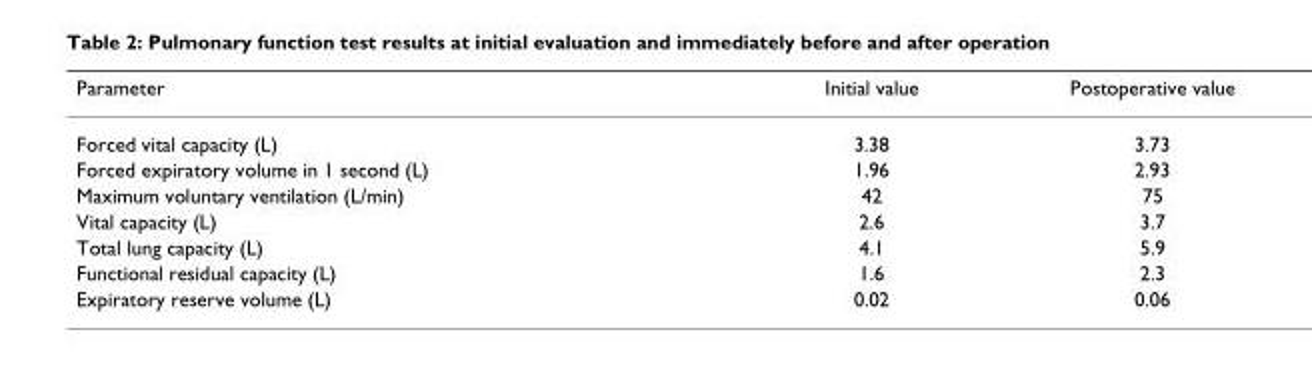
<table><thead><tr><td>Parameter</td><td>Initial value</td><td>Postoperative value</td></tr></thead><tbody><tr><td>Forced vital capacity (L)</td><td>3.38</td><td>3.73</td></tr><tr><td>Forced expiratory volume in 1 second (L)</td><td>1.96</td><td>2.93</td></tr><tr><td>Maximum voluntary ventilation (L/min)</td><td>42</td><td>75</td></tr><tr><td>Vital capacity (L)</td><td>2.6</td><td>3.7</td></tr><tr><td>Total lung capacity (L)</td><td>4.1</td><td>5.9</td></tr><tr><td>Functional residual capacity (L)</td><td>1.6</td><td>2.3</td></tr><tr><td>Expiratory reserve volume (L)</td><td>0.02</td><td>0.06</td></tr></tbody></table>